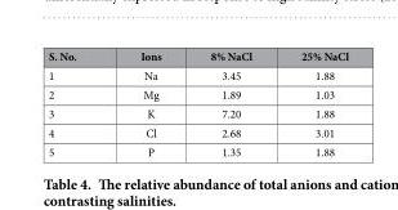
<table><thead><tr><td>S. No.</td><td>Ions</td><td>8% NaCl</td><td>25% NaCl</td></tr></thead><tbody><tr><td>1</td><td>Na</td><td>3.45</td><td>1.88</td></tr><tr><td>2</td><td>Mg</td><td>1.89</td><td>1.03</td></tr><tr><td>3</td><td>K</td><td>7.20</td><td>1.88</td></tr><tr><td>4</td><td>Cl</td><td>2.68</td><td>3.01</td></tr><tr><td>5</td><td>P</td><td>1.35</td><td>1.88</td></tr></tbody></table>